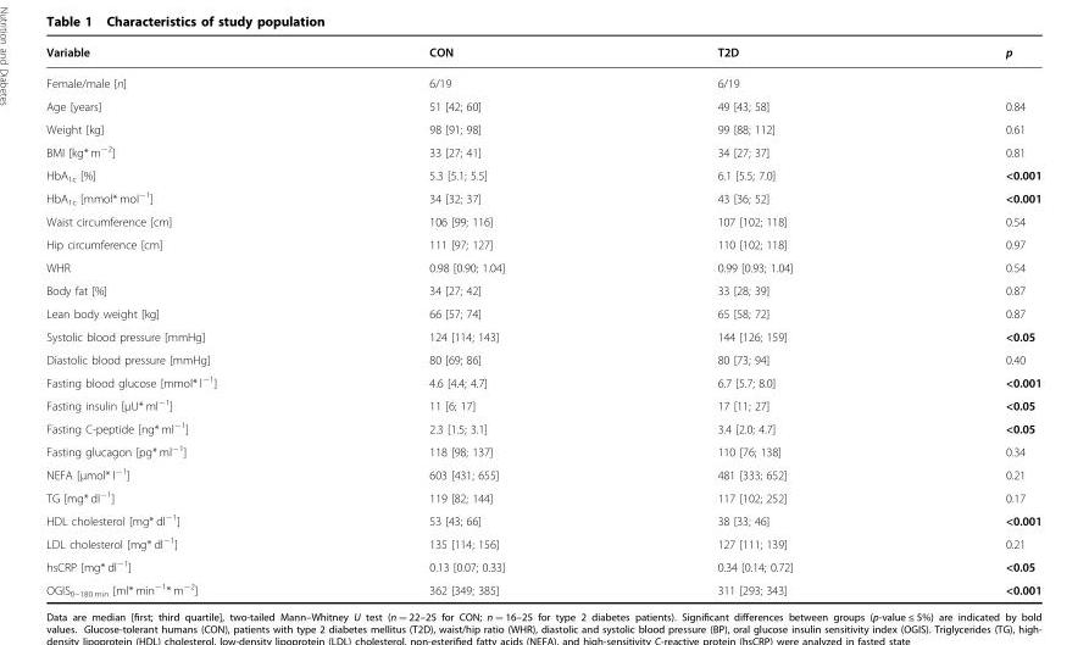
<table><thead><tr><td>Variable</td><td>CON</td><td>T2D</td><td>p</td></tr></thead><tbody><tr><td>Female/male [n]</td><td>6/19</td><td>6/19</td><td></td></tr><tr><td>Age [years]</td><td>51 [42; 60]</td><td>49 [43; 58]</td><td>0.84</td></tr><tr><td>Weight [kg]</td><td>98 [91; 98]</td><td>99 [88; 112]</td><td>0.61</td></tr><tr><td>BMI [kg* m<sup>−2</sup>]</td><td>33 [27; 41]</td><td>34 [27; 37]</td><td>0.81</td></tr><tr><td>HbA<sub>1c</sub> [%]</td><td>5.3 [5.1; 5.5]</td><td>6.1 [5.5; 7.0]</td><td>&lt;0.001</td></tr><tr><td>HbA<sub>1c</sub> [mmol* mol<sup>−1</sup>]</td><td>34 [32; 37]</td><td>43 [36; 52]</td><td>&lt;0.001</td></tr><tr><td>Waist circumference [cm]</td><td>106 [99; 116]</td><td>107 [102; 118]</td><td>0.54</td></tr><tr><td>Hip circumference [cm]</td><td>111 [97; 127]</td><td>110 [102; 118]</td><td>0.97</td></tr><tr><td>WHR</td><td>0.98 [0.90; 1.04]</td><td>0.99 [0.93; 1.04]</td><td>0.54</td></tr><tr><td>Body fat [%]</td><td>34 [27; 42]</td><td>33 [28; 39]</td><td>0.87</td></tr><tr><td>Lean body weight [kg]</td><td>66 [57; 74]</td><td>65 [58; 72]</td><td>0.87</td></tr><tr><td>Systolic blood pressure [mmHg]</td><td>124 [114; 143]</td><td>144 [126; 159]</td><td>&lt;0.05</td></tr><tr><td>Diastolic blood pressure [mmHg]</td><td>80 [69; 86]</td><td>80 [73; 94]</td><td>0.40</td></tr><tr><td>Fasting blood glucose [mmol* l<sup>−1</sup>]</td><td>4.6 [4.4; 4.7]</td><td>6.7 [5.7; 8.0]</td><td>&lt;0.001</td></tr><tr><td>Fasting insulin [µU* ml<sup>−1</sup>]</td><td>11 [6; 17]</td><td>17 [11; 27]</td><td>&lt;0.05</td></tr><tr><td>Fasting C-peptide [ng* ml<sup>−1</sup>]</td><td>2.3 [1.5; 3.1]</td><td>3.4 [2.0; 4.7]</td><td>&lt;0.05</td></tr><tr><td>Fasting glucagon [pg* ml<sup>−1</sup>]</td><td>118 [98; 137]</td><td>110 [76; 138]</td><td>0.34</td></tr><tr><td>NEFA [µmol* l<sup>−1</sup>]</td><td>603 [431; 655]</td><td>481 [333; 652]</td><td>0.21</td></tr><tr><td>TG [mg* dl<sup>−1</sup>]</td><td>119 [82; 144]</td><td>117 [102; 252]</td><td>0.17</td></tr><tr><td>HDL cholesterol [mg* dl<sup>−1</sup>]</td><td>53 [43; 66]</td><td>38 [33; 46]</td><td>&lt;0.001</td></tr><tr><td>LDL cholesterol [mg* dl<sup>−1</sup>]</td><td>135 [114; 156]</td><td>127 [111; 139]</td><td>0.21</td></tr><tr><td>hsCRP [mg* dl<sup>−1</sup>]</td><td>0.13 [0.07; 0.33]</td><td>0.34 [0.14; 0.72]</td><td>&lt;0.05</td></tr><tr><td>OGIS<sub>0–180 min</sub> [ml* min<sup>−1</sup>* m<sup>−2</sup>]</td><td>362 [349; 385]</td><td>311 [293; 343]</td><td>&lt;0.001</td></tr></tbody></table>